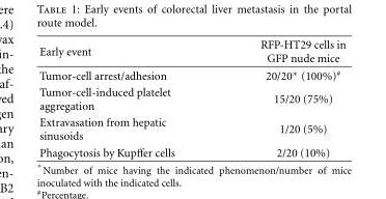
<table><thead><tr><td>Early event</td><td>RFP-HT29 cells in GFP nude mice</td></tr></thead><tbody><tr><td>Tumor-cell arrest/adhesion</td><td>20/20∗ (100%)#</td></tr><tr><td>Tumor-cell-induced platelet aggregation</td><td>15/20 (75%)</td></tr><tr><td>Extravasation from hepatic sinusoids</td><td>1/20 (5%)</td></tr><tr><td>Phagocytosis by Kupffer cells</td><td>2/20 (10%)</td></tr></tbody></table>